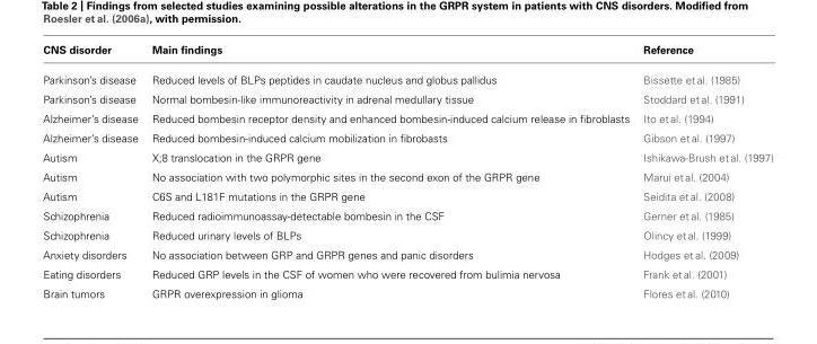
<table><thead><tr><td>CNS disorder</td><td>Main findings</td><td>Reference</td></tr></thead><tbody><tr><td>Parkinson’s disease</td><td>Reduced levels of BLPs peptides in caudate nucleus and globus pallidus</td><td>Bissette et al. (1985)</td></tr><tr><td>Parkinson’s disease</td><td>Normal bombesin-like immunoreactivity in adrenal medullary tissue</td><td>Stoddard et al. (1991)</td></tr><tr><td>Alzheimer’s disease</td><td>Reduced bombesin receptor density and enhanced bombesin-induced calcium release in fibroblasts</td><td>Ito et al. (1994)</td></tr><tr><td>Alzheimer’s disease</td><td>Reduced bombesin-induced calcium mobilization in fibrobasts</td><td>Gibson et al. (1997)</td></tr><tr><td>Autism</td><td>X;8 translocation in the GRPR gene</td><td>Ishikawa-Brush et al. (1997)</td></tr><tr><td>Autism</td><td>No association with two polymorphic sites in the second exon of the GRPR gene</td><td>Marui et al. (2004)</td></tr><tr><td>Autism</td><td>C6S and L181F mutations in the GRPR gene</td><td>Seidita et al. (2008)</td></tr><tr><td>Schizophrenia</td><td>Reduced radioimmunoassay-detectable bombesin in the CSF</td><td>Gerner et al. (1985)</td></tr><tr><td>Schizophrenia</td><td>Reduced urinary levels of BLPs</td><td>Olincy et al. (1999)</td></tr><tr><td>Anxiety disorders</td><td>No association between GRP and GRPR genes and panic disorders</td><td>Hodges et al. (2009)</td></tr><tr><td>Eating disorders</td><td>Reduced GRP levels in the CSF of women who were recovered from bulimia nervosa</td><td>Frank et al. (2001)</td></tr><tr><td>Brain tumors</td><td>GRPR overexpression in glioma</td><td>Flores et al. (2010)</td></tr></tbody></table>